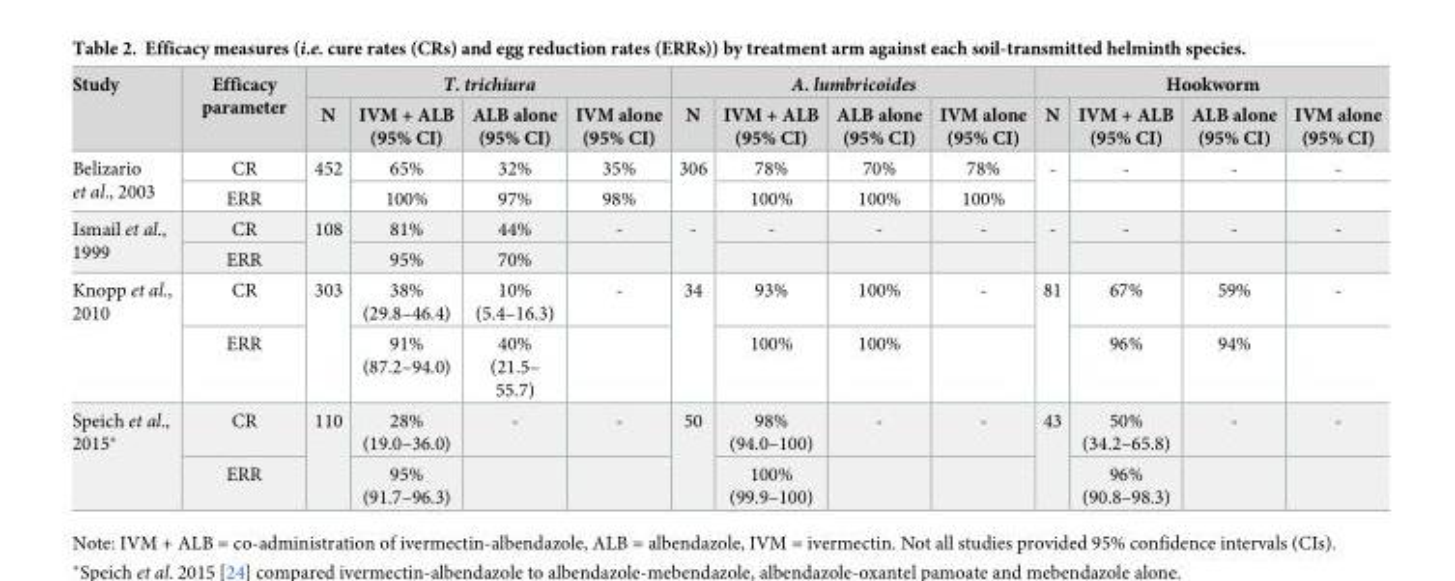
<table><thead><tr><td rowspan="2">Study</td><td rowspan="2">Efficacy parameter</td><td colspan="4">T. trichiura</td><td colspan="4">A. lumbricoides</td><td colspan="4">Hookworm</td></tr><tr><td>N</td><td>IVM + ALB (95% CI)</td><td>ALB alone (95% CI)</td><td>IVM alone (95% CI)</td><td>N</td><td>IVM + ALB (95% CI)</td><td>ALB alone (95% CI)</td><td>IVM alone (95% CI)</td><td>N</td><td>IVM + ALB (95% CI)</td><td>ALB alone (95% CI)</td><td>IVM alone (95% CI)</td></tr></thead><tbody><tr><td rowspan="2">Belizario et al., 2003</td><td>CR</td><td rowspan="2">452</td><td>65%</td><td>32%</td><td>35%</td><td rowspan="2">306</td><td>78%</td><td>70%</td><td>78%</td><td rowspan="2">-</td><td>-</td><td>-</td><td>-</td></tr><tr><td>ERR</td><td>100%</td><td>97%</td><td>98%</td><td>100%</td><td>100%</td><td>100%</td><td></td><td></td><td></td></tr><tr><td rowspan="2">Ismail et al., 1999</td><td>CR</td><td rowspan="2">108</td><td>81%</td><td>44%</td><td>-</td><td rowspan="2">-</td><td>-</td><td>-</td><td>-</td><td rowspan="2">-</td><td>-</td><td>-</td><td>-</td></tr><tr><td>ERR</td><td>95%</td><td>70%</td><td></td><td></td><td></td><td></td><td></td><td></td><td></td></tr><tr><td rowspan="2">Knopp et al., 2010</td><td>CR</td><td rowspan="2">303</td><td>38% (29.8–46.4)</td><td>10% (5.4–16.3)</td><td>-</td><td rowspan="2">34</td><td>93%</td><td>100%</td><td>-</td><td rowspan="2">81</td><td>67%</td><td>59%</td><td>-</td></tr><tr><td>ERR</td><td>91% (87.2–94.0)</td><td>40% (21.5– 55.7)</td><td></td><td>100%</td><td>100%</td><td></td><td>96%</td><td>94%</td><td></td></tr><tr><td rowspan="2">Speich et al., 2015*</td><td>CR</td><td rowspan="2">110</td><td>28% (19.0–36.0)</td><td>-</td><td>-</td><td rowspan="2">50</td><td>98% (94.0–100)</td><td>-</td><td>-</td><td rowspan="2">43</td><td>50% (34.2–65.8)</td><td>-</td><td>-</td></tr><tr><td>ERR</td><td>95% (91.7–96.3)</td><td></td><td></td><td>100% (99.9–100)</td><td></td><td></td><td>96% (90.8–98.3)</td><td></td><td></td></tr></tbody></table>